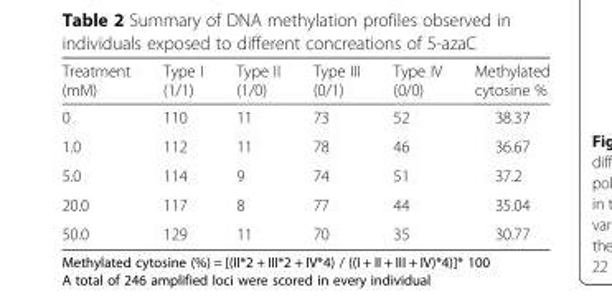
<table><thead><tr><td>Treatment (mM)</td><td>Type I (1/1)</td><td>Type II (1/0)</td><td>Type III (0/1)</td><td>Type IV (0/0)</td><td>Methylated cytosine %</td></tr></thead><tbody><tr><td>0</td><td>110</td><td>11</td><td>73</td><td>52</td><td>38.37</td></tr><tr><td>1.0</td><td>112</td><td>11</td><td>78</td><td>46</td><td>36.67</td></tr><tr><td>5.0</td><td>114</td><td>9</td><td>74</td><td>51</td><td>37.2</td></tr><tr><td>20.0</td><td>117</td><td>8</td><td>77</td><td>44</td><td>35.04</td></tr><tr><td>50.0</td><td>129</td><td>11</td><td>70</td><td>35</td><td>30.77</td></tr></tbody></table>